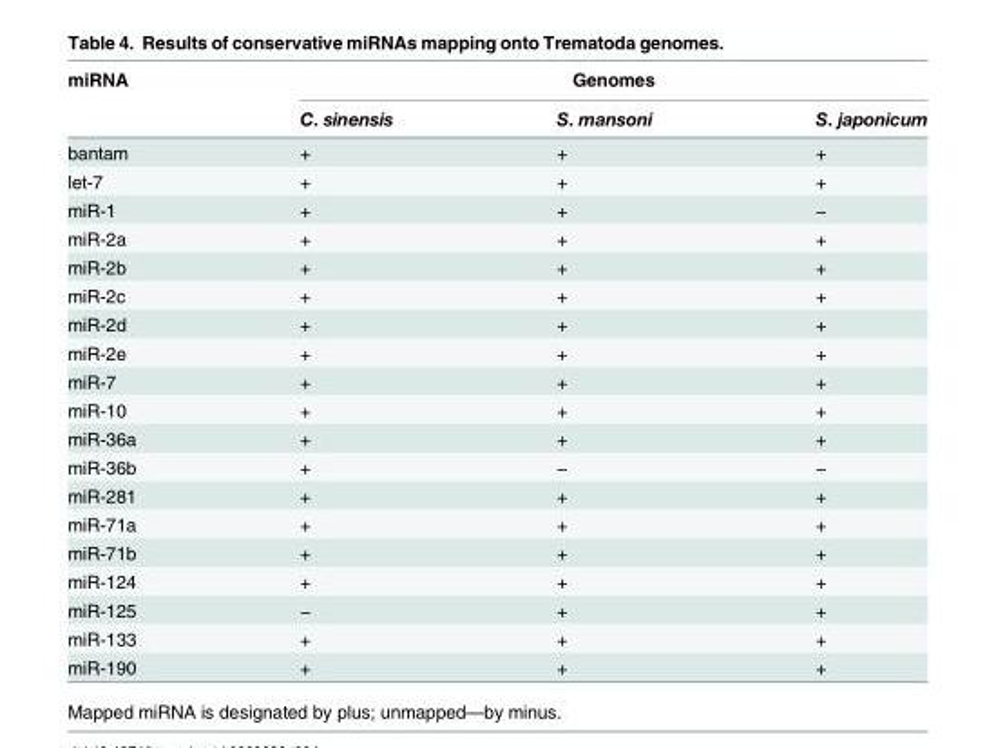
<table><thead><tr><td rowspan="2">miRNA</td><td colspan="3">Genomes</td></tr><tr><td>C. sinensis</td><td>S. mansoni</td><td>S. japonicum</td></tr></thead><tbody><tr><td>bantam</td><td>+</td><td>+</td><td>+</td></tr><tr><td>let-7</td><td>+</td><td>+</td><td>+</td></tr><tr><td>miR-1</td><td>+</td><td>+</td><td>−</td></tr><tr><td>miR-2a</td><td>+</td><td>+</td><td>+</td></tr><tr><td>miR-2b</td><td>+</td><td>+</td><td>+</td></tr><tr><td>miR-2c</td><td>+</td><td>+</td><td>+</td></tr><tr><td>miR-2d</td><td>+</td><td>+</td><td>+</td></tr><tr><td>miR-2e</td><td>+</td><td>+</td><td>+</td></tr><tr><td>miR-7</td><td>+</td><td>+</td><td>+</td></tr><tr><td>miR-10</td><td>+</td><td>+</td><td>+</td></tr><tr><td>miR-36a</td><td>+</td><td>+</td><td>+</td></tr><tr><td>miR-36b</td><td>+</td><td>−</td><td>−</td></tr><tr><td>miR-281</td><td>+</td><td>+</td><td>+</td></tr><tr><td>miR-71a</td><td>+</td><td>+</td><td>+</td></tr><tr><td>miR-71b</td><td>+</td><td>+</td><td>+</td></tr><tr><td>miR-124</td><td>+</td><td>+</td><td>+</td></tr><tr><td>miR-125</td><td>−</td><td>+</td><td>+</td></tr><tr><td>miR-133</td><td>+</td><td>+</td><td>+</td></tr><tr><td>miR-190</td><td>+</td><td>+</td><td>+</td></tr></tbody></table>